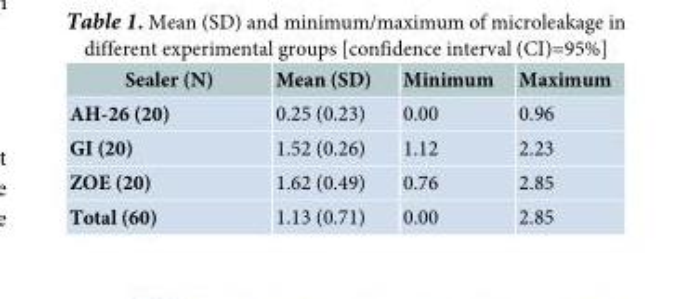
<table><thead><tr><td>Sealer (N)</td><td>Mean (SD)</td><td>Minimum</td><td>Maximum</td></tr></thead><tbody><tr><td>AH-26 (20)</td><td>0.25 (0.23)</td><td>0.00</td><td>0.96</td></tr><tr><td>GI (20)</td><td>1.52 (0.26)</td><td>1.12</td><td>2.23</td></tr><tr><td>ZOE (20)</td><td>1.62 (0.49)</td><td>0.76</td><td>2.85</td></tr><tr><td>Total (60)</td><td>1.13 (0.71)</td><td>0.00</td><td>2.85</td></tr></tbody></table>